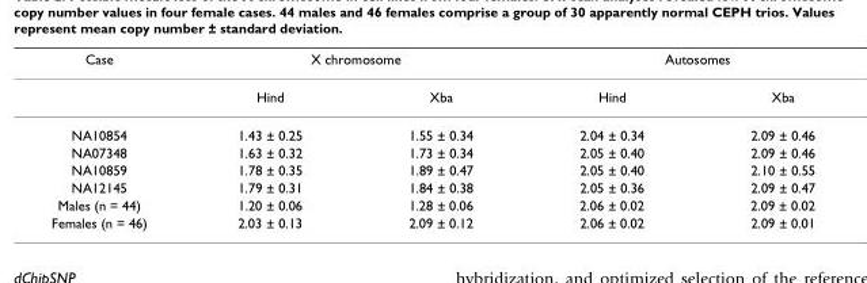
<table><thead><tr><td rowspan="2">Case</td><td colspan="2">X chromosome</td><td colspan="2">Autosomes</td></tr><tr><td>Hind</td><td>Xba</td><td>Hind</td><td>Xba</td></tr></thead><tbody><tr><td>NA10854</td><td>1.43 ± 0.25</td><td>1.55 ± 0.34</td><td>2.04 ± 0.34</td><td>2.09 ± 0.46</td></tr><tr><td>NA07348</td><td>1.63 ± 0.32</td><td>1.73 ± 0.34</td><td>2.05 ± 0.40</td><td>2.09 ± 0.46</td></tr><tr><td>NA10859</td><td>1.78 ± 0.35</td><td>1.89 ± 0.47</td><td>2.05 ± 0.40</td><td>2.10 ± 0.55</td></tr><tr><td>NA12145</td><td>1.79 ± 0.31</td><td>1.84 ± 0.38</td><td>2.05 ± 0.36</td><td>2.09 ± 0.47</td></tr><tr><td>Males (n = 44)</td><td>1.20 ± 0.06</td><td>1.28 ± 0.06</td><td>2.06 ± 0.02</td><td>2.09 ± 0.02</td></tr><tr><td>Females (n = 46)</td><td>2.03 ± 0.13</td><td>2.09 ± 0.12</td><td>2.06 ± 0.02</td><td>2.09 ± 0.01</td></tr></tbody></table>